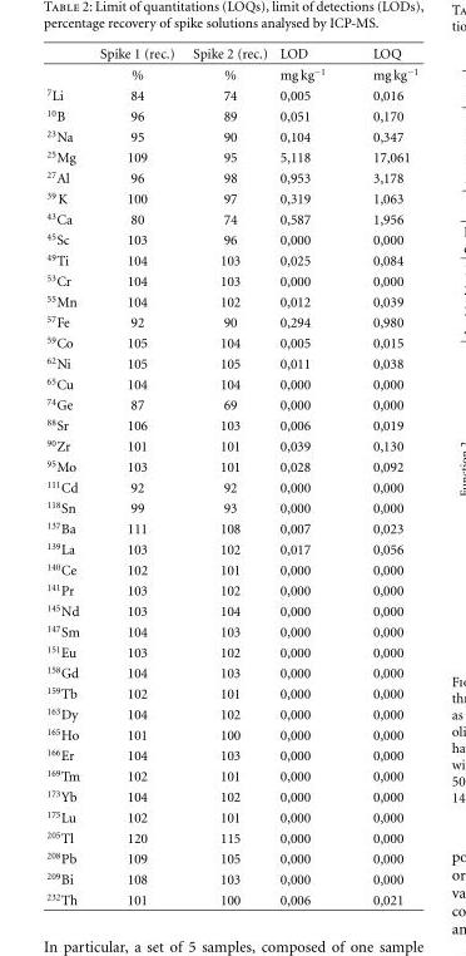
<table><thead><tr><td></td><td>Spike 1 (rec.)</td><td>Spike 2 (rec.)</td><td>LOD</td><td>LOQ</td></tr></thead><tbody><tr><td></td><td>%</td><td>%</td><td>mg kg<sup>−1</sup></td><td>mg kg<sup>−1</sup></td></tr><tr><td><sup>7</sup>Li</td><td>84</td><td>74</td><td>0,005</td><td>0,016</td></tr><tr><td><sup>10</sup>B</td><td>96</td><td>89</td><td>0,051</td><td>0,170</td></tr><tr><td><sup>23</sup>Na</td><td>95</td><td>90</td><td>0,104</td><td>0,347</td></tr><tr><td><sup>25</sup>Mg</td><td>109</td><td>95</td><td>5,118</td><td>17,061</td></tr><tr><td><sup>27</sup>Al</td><td>96</td><td>98</td><td>0,953</td><td>3,178</td></tr><tr><td><sup>39</sup> K</td><td>100</td><td>97</td><td>0,319</td><td>1,063</td></tr><tr><td><sup>43</sup>Ca</td><td>80</td><td>74</td><td>0,587</td><td>1,956</td></tr><tr><td><sup>45</sup>Sc</td><td>103</td><td>96</td><td>0,000</td><td>0,000</td></tr><tr><td><sup>49</sup>Ti</td><td>104</td><td>103</td><td>0,025</td><td>0,084</td></tr><tr><td><sup>53</sup>Cr</td><td>104</td><td>103</td><td>0,000</td><td>0,000</td></tr><tr><td><sup>55</sup>Mn</td><td>104</td><td>102</td><td>0,012</td><td>0,039</td></tr><tr><td><sup>57</sup>Fe</td><td>92</td><td>90</td><td>0,294</td><td>0,980</td></tr><tr><td><sup>59</sup>Co</td><td>105</td><td>104</td><td>0,005</td><td>0,015</td></tr><tr><td><sup>62</sup>Ni</td><td>105</td><td>105</td><td>0,011</td><td>0,038</td></tr><tr><td><sup>65</sup>Cu</td><td>104</td><td>104</td><td>0,000</td><td>0,000</td></tr><tr><td><sup>74</sup>Ge</td><td>87</td><td>69</td><td>0,000</td><td>0,000</td></tr><tr><td><sup>88</sup>Sr</td><td>106</td><td>103</td><td>0,006</td><td>0,019</td></tr><tr><td><sup>90</sup>Zr</td><td>101</td><td>101</td><td>0,039</td><td>0,130</td></tr><tr><td><sup>95</sup>Mo</td><td>103</td><td>101</td><td>0,028</td><td>0,092</td></tr><tr><td><sup>111</sup>Cd</td><td>92</td><td>92</td><td>0,000</td><td>0,000</td></tr><tr><td><sup>118</sup>Sn</td><td>99</td><td>93</td><td>0,000</td><td>0,000</td></tr><tr><td><sup>137</sup>Ba</td><td>111</td><td>108</td><td>0,007</td><td>0,023</td></tr><tr><td><sup>139</sup>La</td><td>103</td><td>102</td><td>0,017</td><td>0,056</td></tr><tr><td><sup>140</sup>Ce</td><td>102</td><td>101</td><td>0,000</td><td>0,000</td></tr><tr><td><sup>141</sup>Pr</td><td>103</td><td>102</td><td>0,000</td><td>0,000</td></tr><tr><td><sup>145</sup>Nd</td><td>103</td><td>104</td><td>0,000</td><td>0,000</td></tr><tr><td><sup>147</sup>Sm</td><td>104</td><td>103</td><td>0,000</td><td>0,000</td></tr><tr><td><sup>151</sup>Eu</td><td>103</td><td>102</td><td>0,000</td><td>0,000</td></tr><tr><td><sup>158</sup>Gd</td><td>104</td><td>103</td><td>0,000</td><td>0,000</td></tr><tr><td><sup>159</sup>Tb</td><td>102</td><td>101</td><td>0,000</td><td>0,000</td></tr><tr><td><sup>163</sup>Dy</td><td>104</td><td>102</td><td>0,000</td><td>0,000</td></tr><tr><td><sup>165</sup>Ho</td><td>101</td><td>100</td><td>0,000</td><td>0,000</td></tr><tr><td><sup>166</sup>Er</td><td>104</td><td>103</td><td>0,000</td><td>0,000</td></tr><tr><td><sup>169</sup>Tm</td><td>102</td><td>101</td><td>0,000</td><td>0,000</td></tr><tr><td><sup>173</sup>Yb</td><td>104</td><td>102</td><td>0,000</td><td>0,000</td></tr><tr><td><sup>175</sup>Lu</td><td>102</td><td>101</td><td>0,000</td><td>0,000</td></tr><tr><td><sup>205</sup>Tl</td><td>120</td><td>115</td><td>0,000</td><td>0,000</td></tr><tr><td><sup>208</sup>Pb</td><td>109</td><td>105</td><td>0,000</td><td>0,000</td></tr><tr><td><sup>209</sup>Bi</td><td>108</td><td>103</td><td>0,000</td><td>0,000</td></tr><tr><td><sup>232</sup>Th</td><td>101</td><td>100</td><td>0,006</td><td>0,021</td></tr></tbody></table>